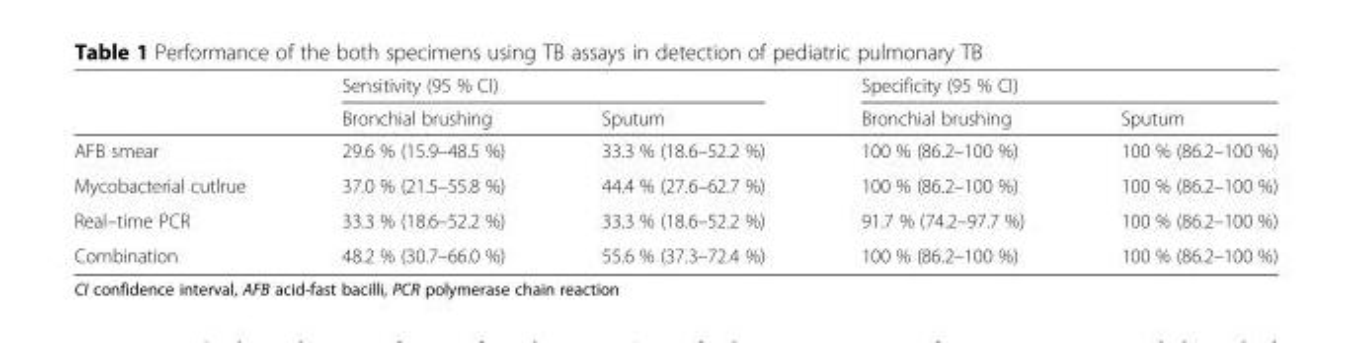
<table><thead><tr><td rowspan="2"></td><td colspan="2">Sensitivity (95 % CI)</td><td colspan="2">Specificity (95 % CI)</td></tr><tr><td>Bronchial brushing</td><td>Sputum</td><td>Bronchial brushing</td><td>Sputum</td></tr></thead><tbody><tr><td>AFB smear</td><td>29.6 % (15.9–48.5 %)</td><td>33.3 % (18.6–52.2 %)</td><td>100 % (86.2–100 %)</td><td>100 % (86.2–100 %)</td></tr><tr><td>Mycobacterial cutlrue</td><td>37.0 % (21.5–55.8 %)</td><td>44.4 % (27.6–62.7 %)</td><td>100 % (86.2–100 %)</td><td>100 % (86.2–100 %)</td></tr><tr><td>Real–time PCR</td><td>33.3 % (18.6–52.2 %)</td><td>33.3 % (18.6–52.2 %)</td><td>91.7 % (74.2–97.7 %)</td><td>100 % (86.2–100 %)</td></tr><tr><td>Combination</td><td>48.2 % (30.7–66.0 %)</td><td>55.6 % (37.3–72.4 %)</td><td>100 % (86.2–100 %)</td><td>100 % (86.2–100 %)</td></tr></tbody></table>